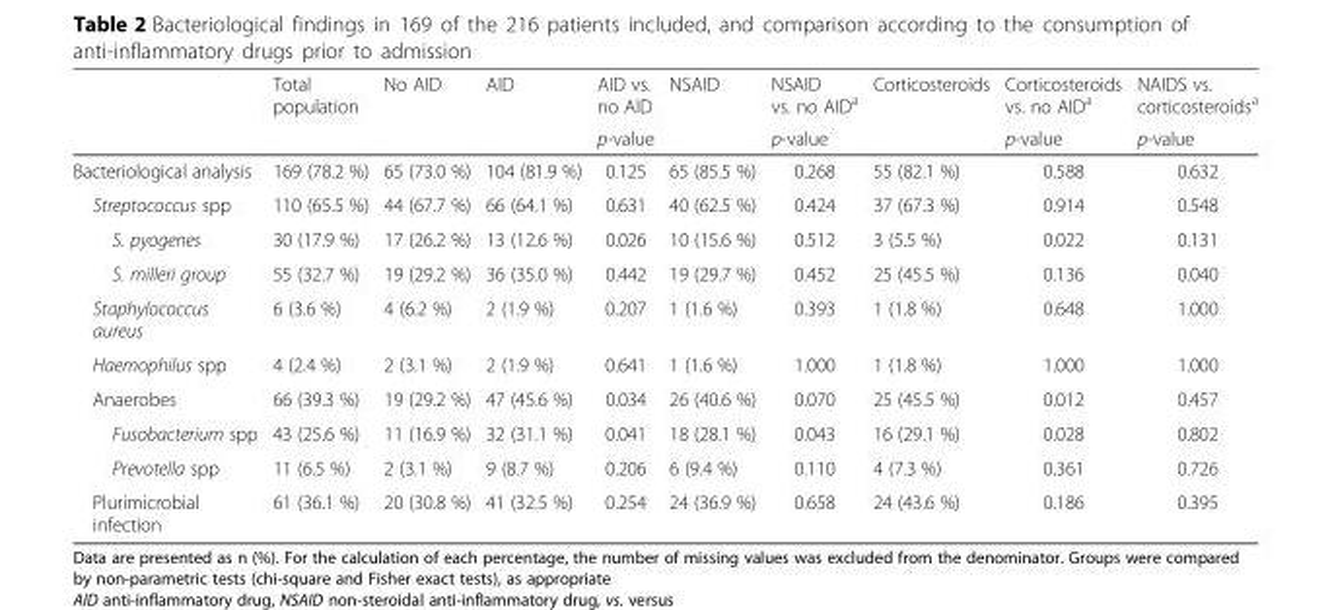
<table><thead><tr><td rowspan="2"></td><td rowspan="2">Total population</td><td rowspan="2">No AID</td><td rowspan="2">AID</td><td rowspan="2">AID vs. no AID p-value</td><td rowspan="2">NSAID</td><td rowspan="2">NSAID vs. no AID<sup>a</sup> p-value</td><td rowspan="2">Corticosteroids</td><td rowspan="2">Corticosteroids vs. no AID<sup>a</sup> p-value</td><td rowspan="2">NAIDS vs. corticosteroids<sup>a</sup> p-value</td></tr><tr></tr></thead><tbody><tr><td>Bacteriological analysis</td><td>169 (78.2 %)</td><td>65 (73.0 %)</td><td>104 (81.9 %)</td><td>0.125</td><td>65 (85.5 %)</td><td>0.268</td><td>55 (82.1 %)</td><td>0.588</td><td>0.632</td></tr><tr><td>Streptococcus spp</td><td>110 (65.5 %)</td><td>44 (67.7 %)</td><td>66 (64.1 %)</td><td>0.631</td><td>40 (62.5 %)</td><td>0.424</td><td>37 (67.3 %)</td><td>0.914</td><td>0.548</td></tr><tr><td>S. pyogenes</td><td>30 (17.9 %)</td><td>17 (26.2 %)</td><td>13 (12.6 %)</td><td>0.026</td><td>10 (15.6 %)</td><td>0.512</td><td>3 (5.5 %)</td><td>0.022</td><td>0.131</td></tr><tr><td>S. milleri group</td><td>55 (32.7 %)</td><td>19 (29.2 %)</td><td>36 (35.0 %)</td><td>0.442</td><td>19 (29.7 %)</td><td>0.452</td><td>25 (45.5 %)</td><td>0.136</td><td>0.040</td></tr><tr><td>Staphylococcus aureus</td><td>6 (3.6 %)</td><td>4 (6.2 %)</td><td>2 (1.9 %)</td><td>0.207</td><td>1 (1.6 %)</td><td>0.393</td><td>1 (1.8 %)</td><td>0.648</td><td>1.000</td></tr><tr><td>Haemophilus spp</td><td>4 (2.4 %)</td><td>2 (3.1 %)</td><td>2 (1.9 %)</td><td>0.641</td><td>1 (1.6 %)</td><td>1.000</td><td>1 (1.8 %)</td><td>1.000</td><td>1.000</td></tr><tr><td>Anaerobes</td><td>66 (39.3 %)</td><td>19 (29.2 %)</td><td>47 (45.6 %)</td><td>0.034</td><td>26 (40.6 %)</td><td>0.070</td><td>25 (45.5 %)</td><td>0.012</td><td>0.457</td></tr><tr><td>Fusobacterium spp</td><td>43 (25.6 %)</td><td>11 (16.9 %)</td><td>32 (31.1 %)</td><td>0.041</td><td>18 (28.1 %)</td><td>0.043</td><td>16 (29.1 %)</td><td>0.028</td><td>0.802</td></tr><tr><td>Prevotella spp</td><td>11 (6.5 %)</td><td>2 (3.1 %)</td><td>9 (8.7 %)</td><td>0.206</td><td>6 (9.4 %)</td><td>0.110</td><td>4 (7.3 %)</td><td>0.361</td><td>0.726</td></tr><tr><td>Plurimicrobial infection</td><td>61 (36.1 %)</td><td>20 (30.8 %)</td><td>41 (32.5 %)</td><td>0.254</td><td>24 (36.9 %)</td><td>0.658</td><td>24 (43.6 %)</td><td>0.186</td><td>0.395</td></tr></tbody></table>